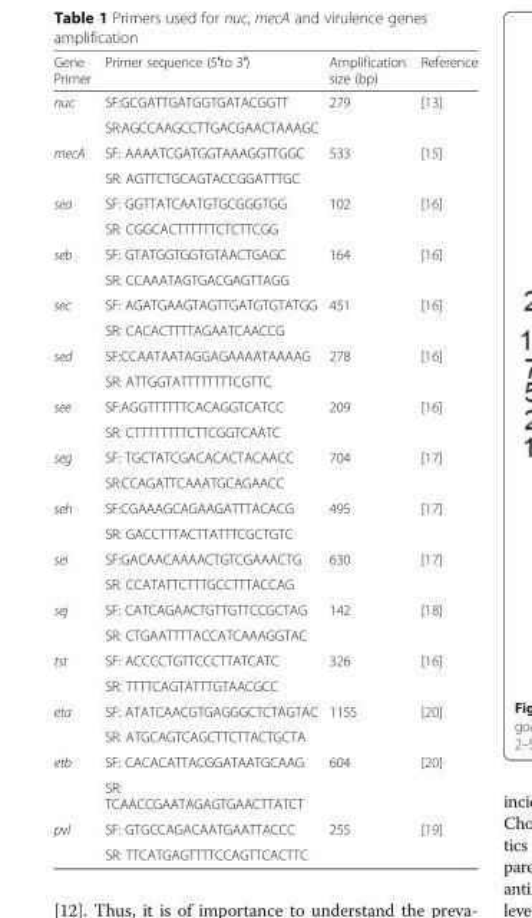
<table><thead><tr><td>Gene Primer</td><td>Primer sequence (5′to 3′)</td><td>Amplification size (bp)</td><td>Reference</td></tr></thead><tbody><tr><td rowspan="2">nuc</td><td>SF:GCGATTGATGGTGATACGGTT</td><td rowspan="2">279</td><td rowspan="2">[13]</td></tr><tr><td>SR:AGCCAAGCCTTGACGAACTAAAGC</td></tr><tr><td rowspan="2">mecA</td><td>SF: AAAATCGATGGTAAAGGTTGGC</td><td rowspan="2">533</td><td rowspan="2">[15]</td></tr><tr><td>SR: AGTTCTGCAGTACCGGATTTGC</td></tr><tr><td rowspan="2">sea</td><td>SF: GGTTATCAATGTGCGGGTGG</td><td rowspan="2">102</td><td rowspan="2">[16]</td></tr><tr><td>SR: CGGCACTTTTTTCTCTTCGG</td></tr><tr><td rowspan="2">seb</td><td>SF: GTATGGTGGTGTAACTGAGC</td><td rowspan="2">164</td><td rowspan="2">[16]</td></tr><tr><td>SR: CCAAATAGTGACGAGTTAGG</td></tr><tr><td rowspan="2">sec</td><td>SF: AGATGAAGTAGTTGATGTGTATGG</td><td rowspan="2">451</td><td rowspan="2">[16]</td></tr><tr><td>SR: CACACTTTTAGAATCAACCG</td></tr><tr><td rowspan="2">sed</td><td>SF:CCAATAATAGGAGAAAATAAAAG</td><td rowspan="2">278</td><td rowspan="2">[16]</td></tr><tr><td>SR: ATTGGTATTTTTTTTCGTTC</td></tr><tr><td rowspan="2">see</td><td>SF:AGGTTTTTTCACAGGTCATCC</td><td rowspan="2">209</td><td rowspan="2">[16]</td></tr><tr><td>SR: CTTTTTTTTCTTCGGTCAATC</td></tr><tr><td rowspan="2">seg</td><td>SF: TGCTATCGACACACTACAACC</td><td rowspan="2">704</td><td rowspan="2">[17]</td></tr><tr><td>SR:CCAGATTCAAATGCAGAACC</td></tr><tr><td rowspan="2">seh</td><td>SF:CGAAAGCAGAAGATTTACACG</td><td rowspan="2">495</td><td rowspan="2">[17]</td></tr><tr><td>SR: GACCTTTACTTATTTCGCTGTC</td></tr><tr><td rowspan="2">sei</td><td>SF:GACAACAAAACTGTCGAAACTG</td><td rowspan="2">630</td><td rowspan="2">[17]</td></tr><tr><td>SR: CCATATTCTTTGCCTTTACCAG</td></tr><tr><td rowspan="2">sej</td><td>SF: CATCAGAACTGTTGTTCCGCTAG</td><td rowspan="2">142</td><td rowspan="2">[18]</td></tr><tr><td>SR: CTGAATTTTACCATCAAAGGTAC</td></tr><tr><td rowspan="2">tst</td><td>SF: ACCCCTGTTCCCTTATCATC</td><td rowspan="2">326</td><td rowspan="2">[16]</td></tr><tr><td>SR: TTTTCAGTATTTGTAACGCC</td></tr><tr><td rowspan="2">eta</td><td>SF: ATATCAACGTGAGGGCTCTAGTAC</td><td rowspan="2">1155</td><td rowspan="2">[20]</td></tr><tr><td>SR: ATGCAGTCAGCTTCTTACTGCTA</td></tr><tr><td rowspan="2">etb</td><td>SF: CACACATTACGGATAATGCAAG</td><td rowspan="2">604</td><td rowspan="2">[20]</td></tr><tr><td>SR: TCAACCGAATAGAGTGAACTTATCT</td></tr><tr><td rowspan="2">pvl</td><td>SF: GTGCCAGACAATGAATTACCC</td><td rowspan="2">255</td><td rowspan="2">[19]</td></tr><tr><td>SR: TTCATGAGTTTTCCAGTTCACTTC</td></tr></tbody></table>